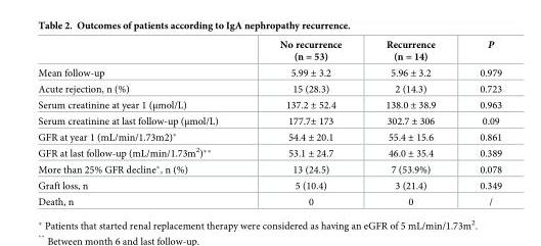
<table><thead><tr><td></td><td>No recurrence (n = 53)</td><td>Recurrence (n = 14)</td><td>P</td></tr></thead><tbody><tr><td>Mean follow-up</td><td>5.99 ± 3.2</td><td>5.96 ± 3.2</td><td>0.979</td></tr><tr><td>Acute rejection, n (%)</td><td>15 (28.3)</td><td>2 (14.3)</td><td>0.723</td></tr><tr><td>Serum creatinine at year 1 (μmol/L)</td><td>137.2 ± 52.4</td><td>138.0 ± 38.9</td><td>0.963</td></tr><tr><td>Serum creatinine at last follow-up (μmol/L)</td><td>177.7± 173</td><td>302.7 ± 306</td><td>0.09</td></tr><tr><td>GFR at year 1 (mL/min/1.73m2)*</td><td>54.4 ± 20.1</td><td>55.4 ± 15.6</td><td>0.861</td></tr><tr><td>GFR at last follow-up (mL/min/1.73m<sup>2</sup>)**</td><td>53.1 ± 24.7</td><td>46.0 ± 35.4</td><td>0.389</td></tr><tr><td>More than 25% GFR decline*, n (%)</td><td>13 (24.5)</td><td>7 (53.9%)</td><td>0.078</td></tr><tr><td>Graft loss, n</td><td>5 (10.4)</td><td>3 (21.4)</td><td>0.349</td></tr><tr><td>Death, n</td><td>0</td><td>0</td><td>/</td></tr></tbody></table>